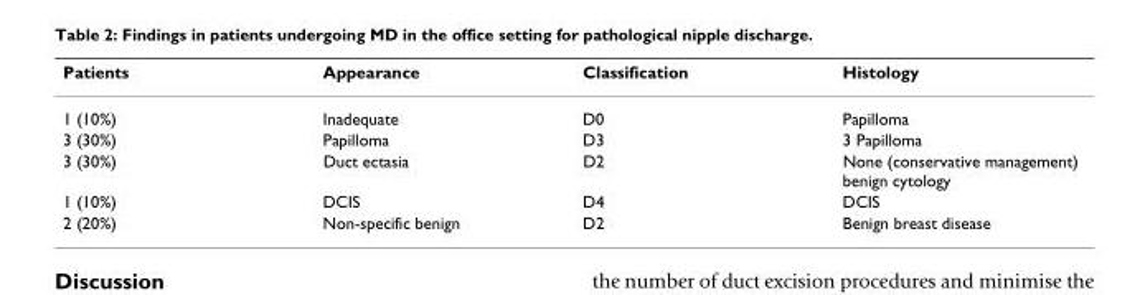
<table><thead><tr><td>Patients</td><td>Appearance</td><td>Classification</td><td>Histology</td></tr></thead><tbody><tr><td>1 (10%)</td><td>Inadequate</td><td>D0</td><td>Papilloma</td></tr><tr><td>3 (30%)</td><td>Papilloma</td><td>D3</td><td>3 Papilloma</td></tr><tr><td>3 (30%)</td><td>Duct ectasia</td><td>D2</td><td>None (conservative management) benign cytology</td></tr><tr><td>1 (10%)</td><td>DCIS</td><td>D4</td><td>DCIS</td></tr><tr><td>2 (20%)</td><td>Non-specific benign</td><td>D2</td><td>Benign breast disease</td></tr></tbody></table>